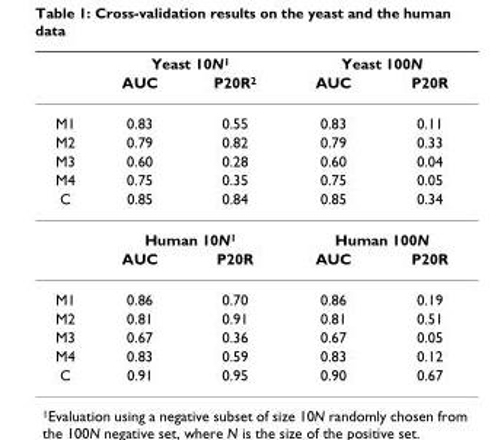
<table><thead><tr><td rowspan="2"></td><td colspan="2">Yeast 10N<sup>1</sup></td><td colspan="2">Yeast 100N</td></tr><tr><td>AUC</td><td>P20R<sup>2</sup></td><td>AUC</td><td>P20R</td></tr></thead><tbody><tr><td>M1</td><td>0.83</td><td>0.55</td><td>0.83</td><td>0.11</td></tr><tr><td>M2</td><td>0.79</td><td>0.82</td><td>0.79</td><td>0.33</td></tr><tr><td>M3</td><td>0.60</td><td>0.28</td><td>0.60</td><td>0.04</td></tr><tr><td>M4</td><td>0.75</td><td>0.35</td><td>0.75</td><td>0.05</td></tr><tr><td rowspan="3">C</td><td>0.85</td><td>0.84</td><td>0.85</td><td>0.34</td></tr><tr><td colspan="2">Human 10N<sup>1</sup></td><td colspan="2">Human 100N</td></tr><tr><td>AUC</td><td>P20R</td><td>AUC</td><td>P20R</td></tr><tr><td>M1</td><td>0.86</td><td>0.70</td><td>0.86</td><td>0.19</td></tr><tr><td>M2</td><td>0.81</td><td>0.91</td><td>0.81</td><td>0.51</td></tr><tr><td>M3</td><td>0.67</td><td>0.36</td><td>0.67</td><td>0.05</td></tr><tr><td>M4</td><td>0.83</td><td>0.59</td><td>0.83</td><td>0.12</td></tr><tr><td>C</td><td>0.91</td><td>0.95</td><td>0.90</td><td>0.67</td></tr></tbody></table>